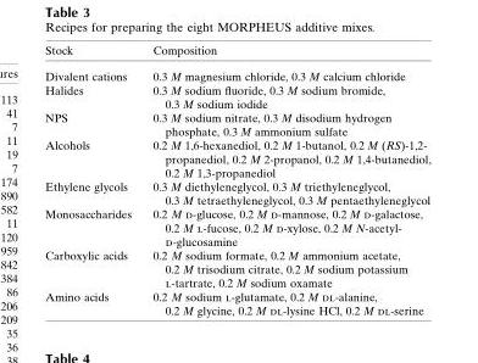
<table><thead><tr><td>Stock</td><td>Composition</td></tr></thead><tbody><tr><td>Divalent cations</td><td>0.3 M magnesium chloride, 0.3 M calcium chloride</td></tr><tr><td>Halides</td><td>0.3 M sodium fluoride, 0.3 M sodium bromide, 0.3 M sodium iodide</td></tr><tr><td>NPS</td><td>0.3 M sodium nitrate, 0.3 M disodium hydrogen phosphate, 0.3 M ammonium sulfate</td></tr><tr><td>Alcohols</td><td>0.2 M 1,6-hexanediol, 0.2 M 1-butanol, 0.2 M (RS)-1,2- propanediol, 0.2 M 2-propanol, 0.2 M 1,4-butanediol, 0.2 M 1,3-propanediol</td></tr><tr><td>Ethylene glycols</td><td>0.3 M diethyleneglycol, 0.3 M triethyleneglycol, 0.3 M tetraethyleneglycol, 0.3 M pentaethyleneglycol</td></tr><tr><td>Monosaccharides</td><td>0.2 M d-glucose, 0.2 M d-mannose, 0.2 M d-galactose, 0.2 M l-fucose, 0.2 M d-xylose, 0.2 M N-acetyl- d-glucosamine</td></tr><tr><td>Carboxylic acids</td><td>0.2 M sodium formate, 0.2 M ammonium acetate, 0.2 M trisodium citrate, 0.2 M sodium potassium l-tartrate, 0.2 M sodium oxamate</td></tr><tr><td>Amino acids</td><td>0.2 M sodium l-glutamate, 0.2 M dl-alanine, 0.2 M glycine, 0.2 M dl-lysine HCl, 0.2 M dl-serine</td></tr></tbody></table>